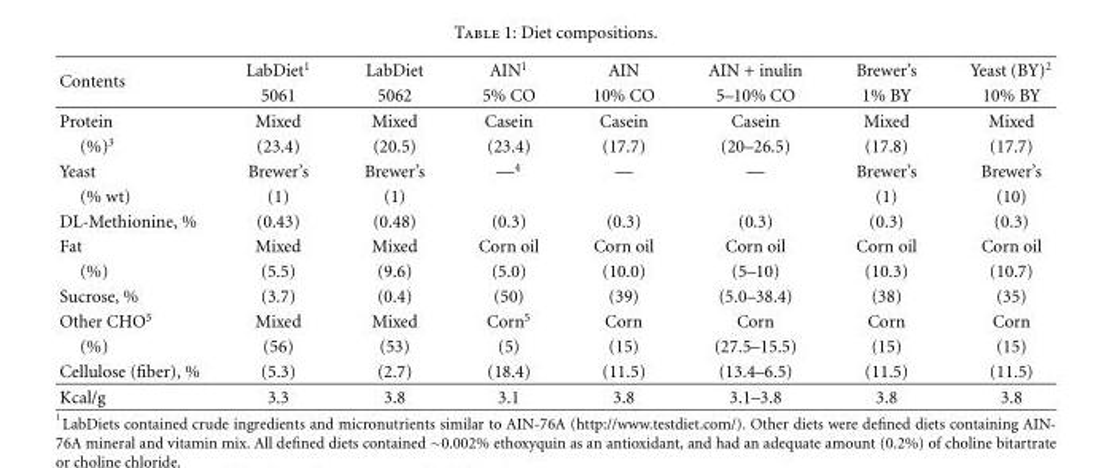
<table><thead><tr><td rowspan="2">Contents</td><td rowspan="2">LabDiet<sup>1</sup> 5061</td><td rowspan="2">LabDiet 5062</td><td rowspan="2">AIN<sup>1</sup> 5% CO</td><td rowspan="2">AIN 10% CO</td><td rowspan="2">AIN + inulin 5–10% CO</td><td rowspan="2">Brewer’s 1% BY</td><td rowspan="2">Yeast (BY)<sup>2</sup> 10% BY</td></tr><tr></tr></thead><tbody><tr><td>Protein</td><td>Mixed</td><td>Mixed</td><td>Casein</td><td>Casein</td><td>Casein</td><td>Mixed</td><td>Mixed</td></tr><tr><td>(%)<sup>3</sup></td><td>(23.4)</td><td>(20.5)</td><td>(23.4)</td><td>(17.7)</td><td>(20–26.5)</td><td>(17.8)</td><td>(17.7)</td></tr><tr><td>Yeast</td><td>Brewer’s</td><td>Brewer’s</td><td>—<sup>4</sup></td><td>—</td><td>—</td><td>Brewer’s</td><td>Brewer’s</td></tr><tr><td>(% wt)</td><td>(1)</td><td>(1)</td><td></td><td></td><td></td><td>(1)</td><td>(10)</td></tr><tr><td>DL-Methionine, %</td><td>(0.43)</td><td>(0.48)</td><td>(0.3)</td><td>(0.3)</td><td>(0.3)</td><td>(0.3)</td><td>(0.3)</td></tr><tr><td>Fat</td><td>Mixed</td><td>Mixed</td><td>Corn oil</td><td>Corn oil</td><td>Corn oil</td><td>Corn oil</td><td>Corn oil</td></tr><tr><td>(%)</td><td>(5.5)</td><td>(9.6)</td><td>(5.0)</td><td>(10.0)</td><td>(5–10)</td><td>(10.3)</td><td>(10.7)</td></tr><tr><td>Sucrose, %</td><td>(3.7)</td><td>(0.4)</td><td>(50)</td><td>(39)</td><td>(5.0–38.4)</td><td>(38)</td><td>(35)</td></tr><tr><td>Other CHO<sup>5</sup></td><td>Mixed</td><td>Mixed</td><td>Corn<sup>5</sup></td><td>Corn</td><td>Corn</td><td>Corn</td><td>Corn</td></tr><tr><td>(%)</td><td>(56)</td><td>(53)</td><td>(5)</td><td>(15)</td><td>(27.5–15.5)</td><td>(15)</td><td>(15)</td></tr><tr><td>Cellulose (fiber), %</td><td>(5.3)</td><td>(2.7)</td><td>(18.4)</td><td>(11.5)</td><td>(13.4–6.5)</td><td>(11.5)</td><td>(11.5)</td></tr><tr><td>Kcal/g</td><td>3.3</td><td>3.8</td><td>3.1</td><td>3.8</td><td>3.1–3.8</td><td>3.8</td><td>3.8</td></tr></tbody></table>